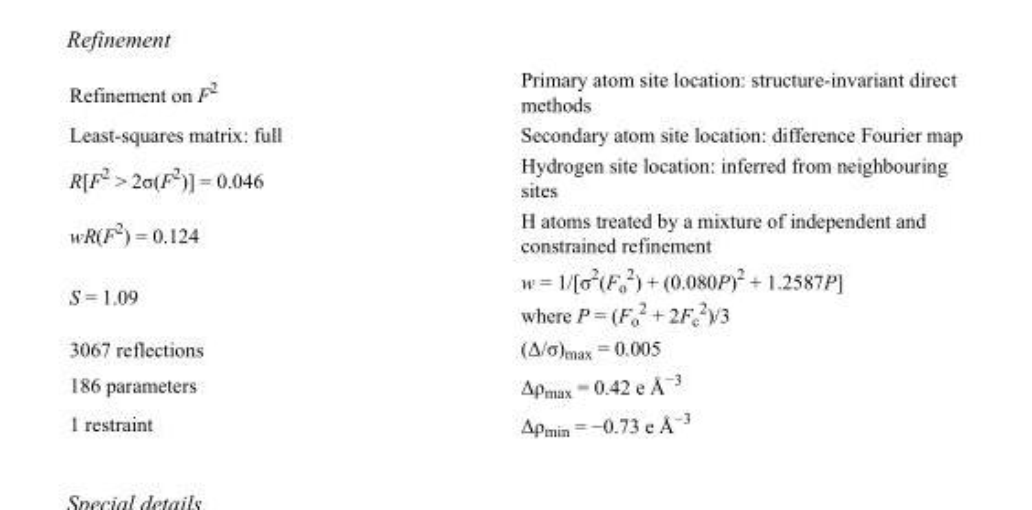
<table><tbody><tr><td>Refinement on F<sup>2</sup></td><td>Primary atom site location: structure-invariant direct methods</td></tr><tr><td>Least-squares matrix: full</td><td>Secondary atom site location: difference Fourier map</td></tr><tr><td>R[F<sup>2</sup> &gt; 2σ(F<sup>2</sup>)] = 0.046</td><td>Hydrogen site location: inferred from neighbouring sites</td></tr><tr><td>wR(F<sup>2</sup>) = 0.124</td><td>H atoms treated by a mixture of independent and constrained refinement</td></tr><tr><td>S = 1.09</td><td>w = 1/[σ<sup>2</sup>(F<sub>o</sub> <sup>2</sup>) + (0.080P)<sup>2</sup> + 1.2587P] where P = (F<sub>o</sub> <sup>2</sup> + 2F<sub>c</sub> <sup>2</sup>)/3</td></tr><tr><td>3067 reflections</td><td>(Δ/σ)<sub>max</sub> = 0.005</td></tr><tr><td>186 parameters</td><td>Δρ<sub>max</sub> = 0.42 e Å<sup>−3</sup></td></tr><tr><td>1 restraint</td><td>Δρ<sub>min</sub> = −0.73 e Å<sup>−3</sup></td></tr></tbody></table>